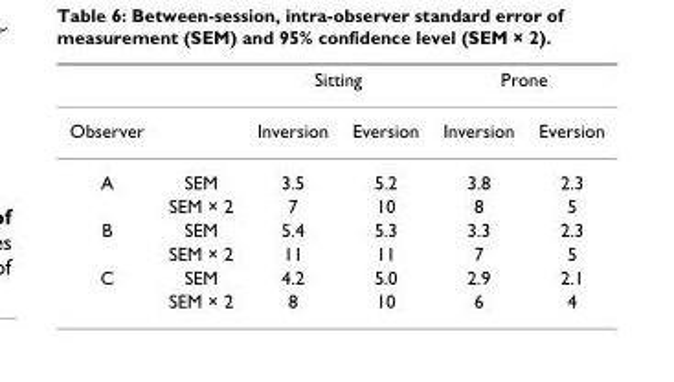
<table><thead><tr><td rowspan="2">Observer</td><td rowspan="2"></td><td colspan="2">Sitting</td><td colspan="2">Prone</td></tr><tr><td>Inversion</td><td>Eversion</td><td>Inversion</td><td>Eversion</td></tr></thead><tbody><tr><td rowspan="2">A</td><td>SEM</td><td>3.5</td><td>5.2</td><td>3.8</td><td>2.3</td></tr><tr><td>SEM × 2</td><td>7</td><td>10</td><td>8</td><td>5</td></tr><tr><td rowspan="2">B</td><td>SEM</td><td>5.4</td><td>5.3</td><td>3.3</td><td>2.3</td></tr><tr><td>SEM × 2</td><td>11</td><td>11</td><td>7</td><td>5</td></tr><tr><td rowspan="2">C</td><td>SEM</td><td>4.2</td><td>5.0</td><td>2.9</td><td>2.1</td></tr><tr><td>SEM × 2</td><td>8</td><td>10</td><td>6</td><td>4</td></tr></tbody></table>